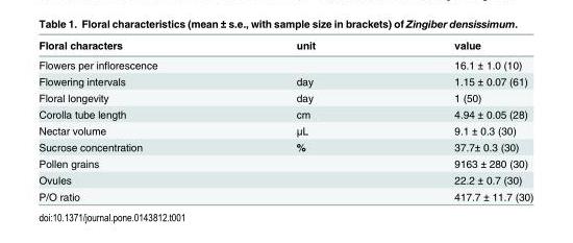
<table><thead><tr><td>Floral characters</td><td>unit</td><td>value</td></tr></thead><tbody><tr><td>Flowers per inflorescence</td><td></td><td>16.1 ± 1.0 (10)</td></tr><tr><td>Flowering intervals</td><td>day</td><td>1.15 ± 0.07 (61)</td></tr><tr><td>Floral longevity</td><td>day</td><td>1 (50)</td></tr><tr><td>Corolla tube length</td><td>cm</td><td>4.94 ± 0.05 (28)</td></tr><tr><td>Nectar volume</td><td>μL</td><td>9.1 ± 0.3 (30)</td></tr><tr><td>Sucrose concentration</td><td>%</td><td>37.7± 0.3 (30)</td></tr><tr><td>Pollen grains</td><td></td><td>9163 ± 280 (30)</td></tr><tr><td>Ovules</td><td></td><td>22.2 ± 0.7 (30)</td></tr><tr><td>P/O ratio</td><td></td><td>417.7 ± 11.7 (30)</td></tr></tbody></table>